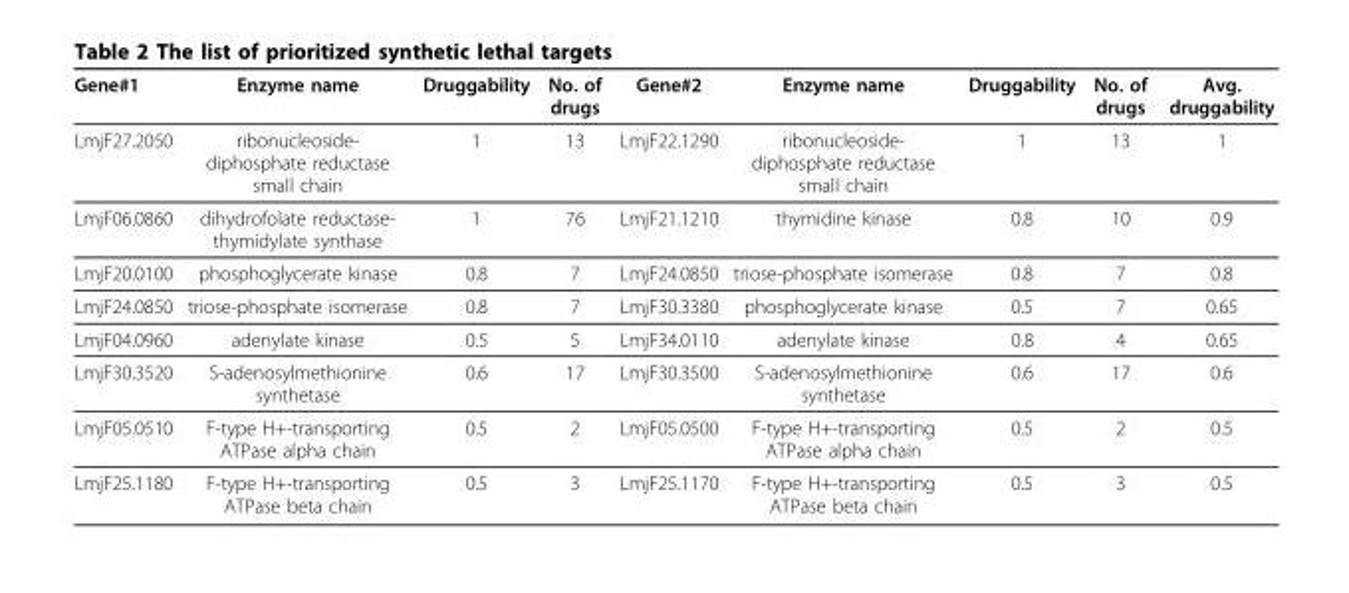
<table><thead><tr><td>Gene#1</td><td>Enzyme name</td><td>Druggability</td><td>No. of drugs</td><td>Gene#2</td><td>Enzyme name</td><td>Druggability</td><td>No. of drugs</td><td>Avg. druggability</td></tr></thead><tbody><tr><td>LmjF27.2050</td><td>ribonucleoside- diphosphate reductase small chain</td><td>1</td><td>13</td><td>LmjF22.1290</td><td>ribonucleoside- diphosphate reductase small chain</td><td>1</td><td>13</td><td>1</td></tr><tr><td>LmjF06.0860</td><td>dihydrofolate reductase- thymidylate synthase</td><td>1</td><td>76</td><td>LmjF21.1210</td><td>thymidine kinase</td><td>0.8</td><td>10</td><td>0.9</td></tr><tr><td>LmjF20.0100</td><td>phosphoglycerate kinase</td><td>0.8</td><td>7</td><td>LmjF24.0850</td><td>triose-phosphate isomerase</td><td>0.8</td><td>7</td><td>0.8</td></tr><tr><td>LmjF24.0850</td><td>triose-phosphate isomerase</td><td>0.8</td><td>7</td><td>LmjF30.3380</td><td>phosphoglycerate kinase</td><td>0.5</td><td>7</td><td>0.65</td></tr><tr><td>LmjF04.0960</td><td>adenylate kinase</td><td>0.5</td><td>5</td><td>LmjF34.0110</td><td>adenylate kinase</td><td>0.8</td><td>4</td><td>0.65</td></tr><tr><td>LmjF30.3520</td><td>S-adenosylmethionine synthetase</td><td>0.6</td><td>17</td><td>LmjF30.3500</td><td>S-adenosylmethionine synthetase</td><td>0.6</td><td>17</td><td>0.6</td></tr><tr><td>LmjF05.0510</td><td>F-type H+-transporting ATPase alpha chain</td><td>0.5</td><td>2</td><td>LmjF05.0500</td><td>F-type H+-transporting ATPase alpha chain</td><td>0.5</td><td>2</td><td>0.5</td></tr><tr><td>LmjF25.1180</td><td>F-type H+-transporting ATPase beta chain</td><td>0.5</td><td>3</td><td>LmjF25.1170</td><td>F-type H+-transporting ATPase beta chain</td><td>0.5</td><td>3</td><td>0.5</td></tr></tbody></table>